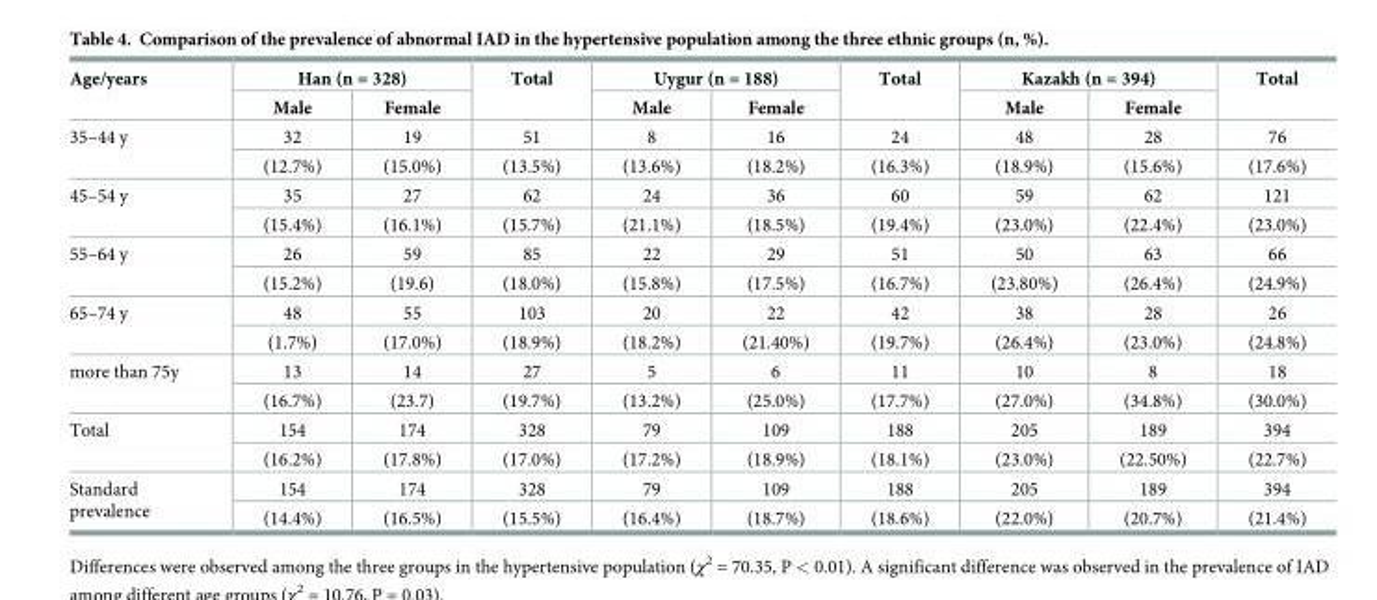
<table><thead><tr><td rowspan="2">Age/years</td><td colspan="2">Han (n = 328)</td><td rowspan="2">Total</td><td colspan="2">Uygur (n = 188)</td><td rowspan="2">Total</td><td colspan="2">Kazakh (n = 394)</td><td rowspan="2">Total</td></tr><tr><td>Male</td><td>Female</td><td>Male</td><td>Female</td><td>Male</td><td>Female</td></tr></thead><tbody><tr><td rowspan="2">35–44 y</td><td>32</td><td>19</td><td>51</td><td>8</td><td>16</td><td>24</td><td>48</td><td>28</td><td>76</td></tr><tr><td>(12.7%)</td><td>(15.0%)</td><td>(13.5%)</td><td>(13.6%)</td><td>(18.2%)</td><td>(16.3%)</td><td>(18.9%)</td><td>(15.6%)</td><td>(17.6%)</td></tr><tr><td rowspan="2">45–54 y</td><td>35</td><td>27</td><td>62</td><td>24</td><td>36</td><td>60</td><td>59</td><td>62</td><td>121</td></tr><tr><td>(15.4%)</td><td>(16.1%)</td><td>(15.7%)</td><td>(21.1%)</td><td>(18.5%)</td><td>(19.4%)</td><td>(23.0%)</td><td>(22.4%)</td><td>(23.0%)</td></tr><tr><td rowspan="2">55–64 y</td><td>26</td><td>59</td><td>85</td><td>22</td><td>29</td><td>51</td><td>50</td><td>63</td><td>66</td></tr><tr><td>(15.2%)</td><td>(19.6)</td><td>(18.0%)</td><td>(15.8%)</td><td>(17.5%)</td><td>(16.7%)</td><td>(23.80%)</td><td>(26.4%)</td><td>(24.9%)</td></tr><tr><td rowspan="2">65–74 y</td><td>48</td><td>55</td><td>103</td><td>20</td><td>22</td><td>42</td><td>38</td><td>28</td><td>26</td></tr><tr><td>(1.7%)</td><td>(17.0%)</td><td>(18.9%)</td><td>(18.2%)</td><td>(21.40%)</td><td>(19.7%)</td><td>(26.4%)</td><td>(23.0%)</td><td>(24.8%)</td></tr><tr><td rowspan="2">more than 75y</td><td>13</td><td>14</td><td>27</td><td>5</td><td>6</td><td>11</td><td>10</td><td>8</td><td>18</td></tr><tr><td>(16.7%)</td><td>(23.7)</td><td>(19.7%)</td><td>(13.2%)</td><td>(25.0%)</td><td>(17.7%)</td><td>(27.0%)</td><td>(34.8%)</td><td>(30.0%)</td></tr><tr><td rowspan="2">Total</td><td>154</td><td>174</td><td>328</td><td>79</td><td>109</td><td>188</td><td>205</td><td>189</td><td>394</td></tr><tr><td>(16.2%)</td><td>(17.8%)</td><td>(17.0%)</td><td>(17.2%)</td><td>(18.9%)</td><td>(18.1%)</td><td>(23.0%)</td><td>(22.50%)</td><td>(22.7%)</td></tr><tr><td rowspan="2">Standard prevalence</td><td>154</td><td>174</td><td>328</td><td>79</td><td>109</td><td>188</td><td>205</td><td>189</td><td>394</td></tr><tr><td>(14.4%)</td><td>(16.5%)</td><td>(15.5%)</td><td>(16.4%)</td><td>(18.7%)</td><td>(18.6%)</td><td>(22.0%)</td><td>(20.7%)</td><td>(21.4%)</td></tr></tbody></table>